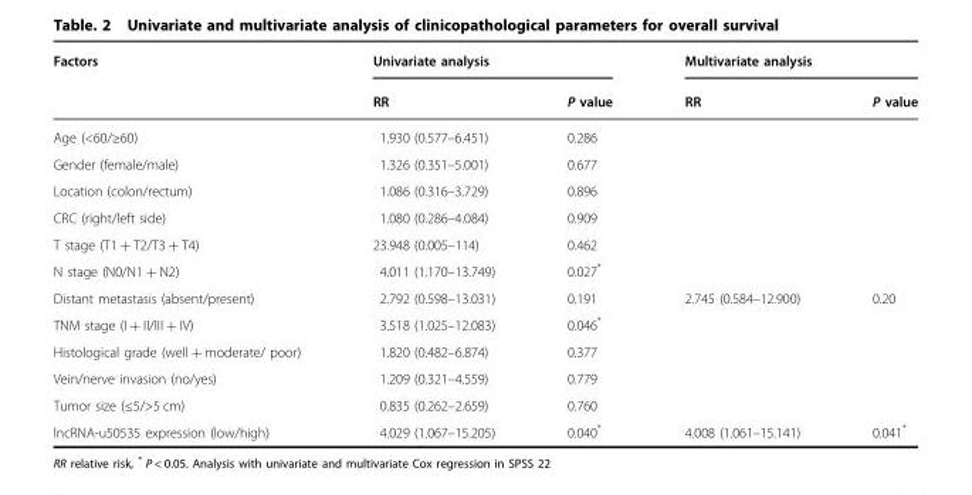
<table><thead><tr><td rowspan="2">Factors</td><td colspan="2">Univariate analysis</td><td colspan="2">Multivariate analysis</td></tr><tr><td>RR</td><td>P value</td><td>RR</td><td>P value</td></tr></thead><tbody><tr><td>Age (&lt;60/≥60)</td><td>1.930 (0.577–6.451)</td><td>0.286</td><td rowspan="6"></td><td rowspan="6"></td></tr><tr><td>Gender (female/male)</td><td>1.326 (0.351–5.001)</td><td>0.677</td></tr><tr><td>Location (colon/rectum)</td><td>1.086 (0.316–3.729)</td><td>0.896</td></tr><tr><td>CRC (right/left side)</td><td>1.080 (0.286–4.084)</td><td>0.909</td></tr><tr><td>T stage (T1 + T2/T3 + T4)</td><td>23.948 (0.005–114)</td><td>0.462</td></tr><tr><td>N stage (N0/N1 + N2)</td><td>4.011 (1.170–13.749)</td><td>0.027*</td></tr><tr><td>Distant metastasis (absent/present)</td><td>2.792 (0.598–13.031)</td><td>0.191</td><td>2.745 (0.584–12.900)</td><td>0.20</td></tr><tr><td>TNM stage (I + II/III + IV)</td><td>3.518 (1.025–12.083)</td><td>0.046*</td><td rowspan="4"></td><td rowspan="4"></td></tr><tr><td>Histological grade (well + moderate/ poor)</td><td>1.820 (0.482–6.874)</td><td>0.377</td></tr><tr><td>Vein/nerve invasion (no/yes)</td><td>1.209 (0.321–4.559)</td><td>0.779</td></tr><tr><td>Tumor size (≤5/&gt;5 cm)</td><td>0.835 (0.262–2.659)</td><td>0.760</td></tr><tr><td>lncRNA-u50535 expression (low/high)</td><td>4.029 (1.067–15.205)</td><td>0.040*</td><td>4.008 (1.061–15.141)</td><td>0.041*</td></tr></tbody></table>